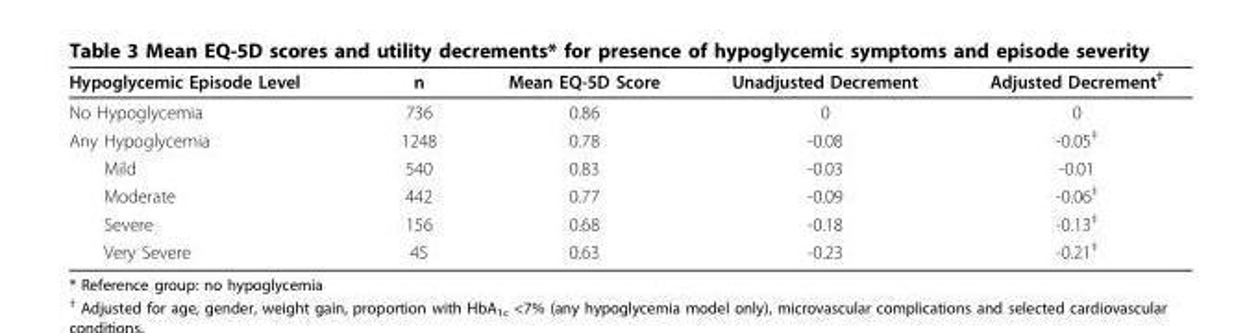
<table><thead><tr><td>Hypoglycemic Episode Level</td><td>n</td><td>Mean EQ-5D Score</td><td>Unadjusted Decrement</td><td>Adjusted Decrement<sup>†</sup></td></tr></thead><tbody><tr><td>No Hypoglycemia</td><td>736</td><td>0.86</td><td>0</td><td>0</td></tr><tr><td>Any Hypoglycemia</td><td>1248</td><td>0.78</td><td>-0.08</td><td>-0.05<sup>‡</sup></td></tr><tr><td>Mild</td><td>540</td><td>0.83</td><td>-0.03</td><td>-0.01</td></tr><tr><td>Moderate</td><td>442</td><td>0.77</td><td>-0.09</td><td>-0.06<sup>‡</sup></td></tr><tr><td>Severe</td><td>156</td><td>0.68</td><td>-0.18</td><td>-0.13<sup>‡</sup></td></tr><tr><td>Very Severe</td><td>45</td><td>0.63</td><td>-0.23</td><td>-0.21<sup>‡</sup></td></tr></tbody></table>